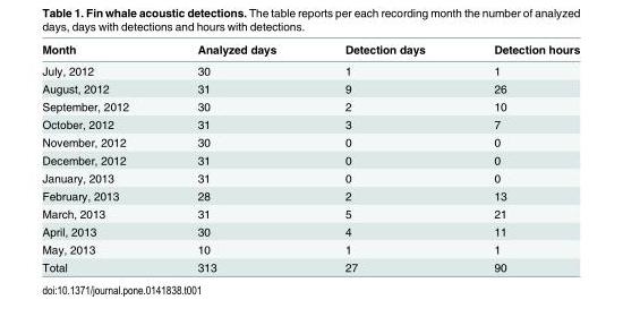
<table><thead><tr><td>Month</td><td>Analyzed days</td><td>Detection days</td><td>Detection hours</td></tr></thead><tbody><tr><td>July, 2012</td><td>30</td><td>1</td><td>1</td></tr><tr><td>August, 2012</td><td>31</td><td>9</td><td>26</td></tr><tr><td>September, 2012</td><td>30</td><td>2</td><td>10</td></tr><tr><td>October, 2012</td><td>31</td><td>3</td><td>7</td></tr><tr><td>November, 2012</td><td>30</td><td>0</td><td>0</td></tr><tr><td>December, 2012</td><td>31</td><td>0</td><td>0</td></tr><tr><td>January, 2013</td><td>31</td><td>0</td><td>0</td></tr><tr><td>February, 2013</td><td>28</td><td>2</td><td>13</td></tr><tr><td>March, 2013</td><td>31</td><td>5</td><td>21</td></tr><tr><td>April, 2013</td><td>30</td><td>4</td><td>11</td></tr><tr><td>May, 2013</td><td>10</td><td>1</td><td>1</td></tr><tr><td>Total</td><td>313</td><td>27</td><td>90</td></tr></tbody></table>